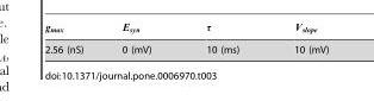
<table><tbody><tr><td>2.56 (nS)</td><td>0 (mV)</td><td>10 (ms)</td><td>10 (mV)</td></tr></tbody></table>